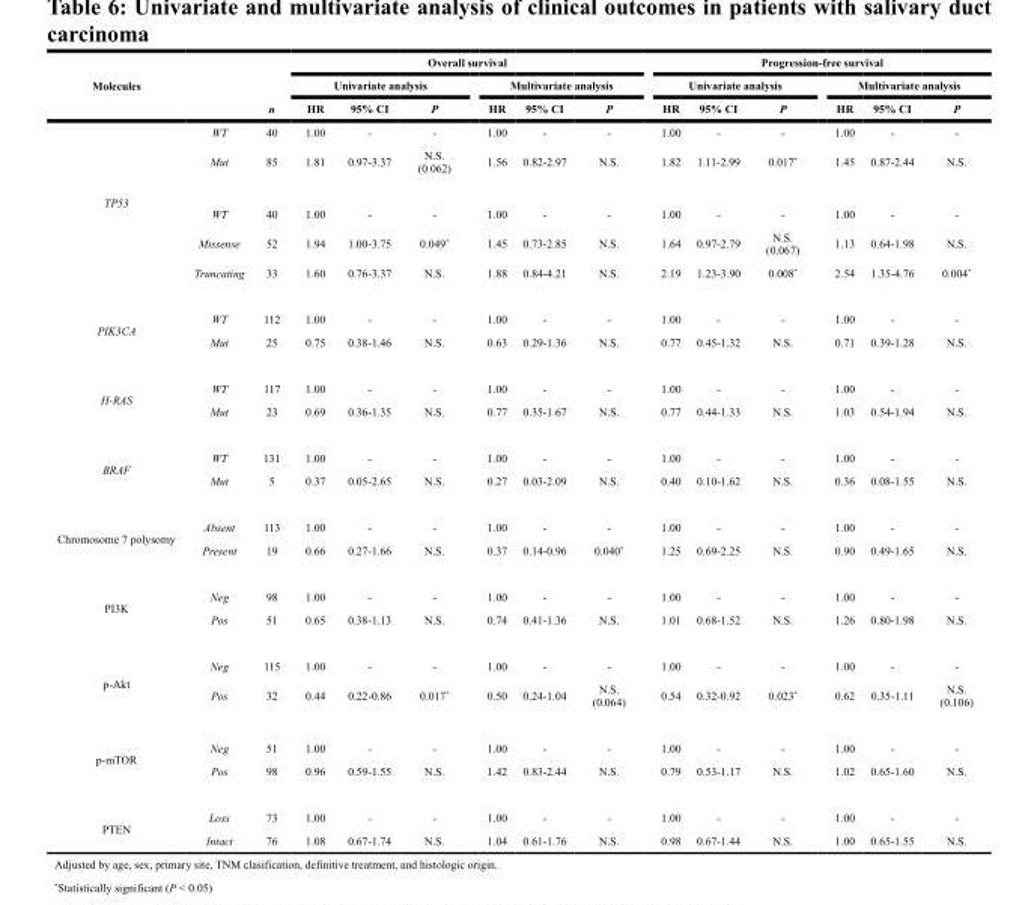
<table><thead><tr><td rowspan="3">Molecules</td><td rowspan="3"></td><td rowspan="3">n</td><td colspan="6">Overall survival</td><td colspan="6">Progression-free survival</td></tr><tr><td colspan="3">Univariate analysis</td><td colspan="3">Multivariate analysis</td><td colspan="3">Univariate analysis</td><td colspan="3">Multivariate analysis</td></tr><tr><td>HR</td><td>95% CI</td><td>P</td><td>HR</td><td>95% CI</td><td>P</td><td>HR</td><td>95% CI</td><td>P</td><td>HR</td><td>95% CI</td><td>P</td></tr></thead><tbody><tr><td rowspan="5">TP53</td><td>WT</td><td>40</td><td>1.00</td><td>-</td><td>-</td><td>1.00</td><td>-</td><td>-</td><td>1.00</td><td>-</td><td>-</td><td>1.00</td><td>-</td><td>-</td></tr><tr><td>Mut</td><td>85</td><td>1.81</td><td>0.97-3.37</td><td>N.S. (0.062)</td><td>1.56</td><td>0.82-2.97</td><td>N.S.</td><td>1.82</td><td>1.11-2.99</td><td>0.017*</td><td>1.45</td><td>0.87-2.44</td><td>N.S.</td></tr><tr><td>WT</td><td>40</td><td>1.00</td><td>-</td><td>-</td><td>1.00</td><td>-</td><td>-</td><td>1.00</td><td>-</td><td>-</td><td>1.00</td><td>-</td><td>-</td></tr><tr><td>Missense</td><td>52</td><td>1.94</td><td>1.00-3.75</td><td>0.049*</td><td>1.45</td><td>0.73-2.85</td><td>N.S.</td><td>1.64</td><td>0.97-2.79</td><td>N.S. (0.067)</td><td>1.13</td><td>0.64-1.98</td><td>N.S.</td></tr><tr><td>Truncating</td><td>33</td><td>1.60</td><td>0.76-3.37</td><td>N.S.</td><td>1.88</td><td>0.84-4.21</td><td>N.S.</td><td>2.19</td><td>1.23-3.90</td><td>0.008*</td><td>2.54</td><td>1.35-4.76</td><td>0.004*</td></tr><tr><td rowspan="2">PIK3CA</td><td>WT</td><td>112</td><td>1.00</td><td>-</td><td>-</td><td>1.00</td><td>-</td><td>-</td><td>1.00</td><td>-</td><td>-</td><td>1.00</td><td>-</td><td>-</td></tr><tr><td>Mut</td><td>25</td><td>0.75</td><td>0.38-1.46</td><td>N.S.</td><td>0.63</td><td>0.29-1.36</td><td>N.S.</td><td>0.77</td><td>0.45-1.32</td><td>N.S.</td><td>0.71</td><td>0.39-1.28</td><td>N.S.</td></tr><tr><td rowspan="2">H-RAS</td><td>WT</td><td>117</td><td>1.00</td><td>-</td><td>-</td><td>1.00</td><td>-</td><td>-</td><td>1.00</td><td>-</td><td>-</td><td>1.00</td><td>-</td><td>-</td></tr><tr><td>Mut</td><td>23</td><td>0.69</td><td>0.36-1.35</td><td>N.S.</td><td>0.77</td><td>0.35-1.67</td><td>N.S.</td><td>0.77</td><td>0.44-1.33</td><td>N.S.</td><td>1.03</td><td>0.54-1.94</td><td>N.S.</td></tr><tr><td rowspan="2">BRAF</td><td>WT</td><td>131</td><td>1.00</td><td>-</td><td>-</td><td>1.00</td><td>-</td><td>-</td><td>1.00</td><td>-</td><td>-</td><td>1.00</td><td>-</td><td>-</td></tr><tr><td>Mut</td><td>5</td><td>0.37</td><td>0.05-2.65</td><td>N.S.</td><td>0.27</td><td>0.03-2.09</td><td>N.S.</td><td>0.40</td><td>0.10-1.62</td><td>N.S.</td><td>0.36</td><td>0.08-1.55</td><td>N.S.</td></tr><tr><td rowspan="2">Chromosome 7 polysomy</td><td>Absent</td><td>113</td><td>1.00</td><td>-</td><td>-</td><td>1.00</td><td>-</td><td>-</td><td>1.00</td><td>-</td><td>-</td><td>1.00</td><td>-</td><td>-</td></tr><tr><td>Present</td><td>19</td><td>0.66</td><td>0.27-1.66</td><td>N.S.</td><td>0.37</td><td>0.14-0.96</td><td>0.040*</td><td>1.25</td><td>0.69-2.25</td><td>N.S.</td><td>0.90</td><td>0.49-1.65</td><td>N.S.</td></tr><tr><td rowspan="2">PI3K</td><td>Neg</td><td>98</td><td>1.00</td><td>-</td><td>-</td><td>1.00</td><td>-</td><td>-</td><td>1.00</td><td>-</td><td>-</td><td>1.00</td><td>-</td><td>-</td></tr><tr><td>Pos</td><td>51</td><td>0.65</td><td>0.38-1.13</td><td>N.S.</td><td>0.74</td><td>0.41-1.36</td><td>N.S.</td><td>1.01</td><td>0.68-1.52</td><td>N.S.</td><td>1.26</td><td>0.80-1.98</td><td>N.S.</td></tr><tr><td rowspan="2">p-Akt</td><td>Neg</td><td>115</td><td>1.00</td><td>-</td><td>-</td><td>1.00</td><td>-</td><td>-</td><td>1.00</td><td>-</td><td>-</td><td>1.00</td><td>-</td><td>-</td></tr><tr><td>Pos</td><td>32</td><td>0.44</td><td>0.22-0.86</td><td>0.017*</td><td>0.50</td><td>0.24-1.04</td><td>N.S. (0.064)</td><td>0.54</td><td>0.32-0.92</td><td>0.023*</td><td>0.62</td><td>0.35-1.11</td><td>N.S. (0.106)</td></tr><tr><td rowspan="2">p-mTOR</td><td>Neg</td><td>51</td><td>1.00</td><td>-</td><td>-</td><td>1.00</td><td>-</td><td>-</td><td>1.00</td><td>-</td><td>-</td><td>1.00</td><td>-</td><td>-</td></tr><tr><td>Pos</td><td>98</td><td>0.96</td><td>0.59-1.55</td><td>N.S.</td><td>1.42</td><td>0.83-2.44</td><td>N.S.</td><td>0.79</td><td>0.53-1.17</td><td>N.S.</td><td>1.02</td><td>0.65-1.60</td><td>N.S.</td></tr><tr><td rowspan="2">PTEN</td><td>Loss</td><td>73</td><td>1.00</td><td>-</td><td>-</td><td>1.00</td><td>-</td><td>-</td><td>1.00</td><td>-</td><td>-</td><td>1.00</td><td>-</td><td>-</td></tr><tr><td>Intact</td><td>76</td><td>1.08</td><td>0.67-1.74</td><td>N.S.</td><td>1.04</td><td>0.61-1.76</td><td>N.S.</td><td>0.98</td><td>0.67-1.44</td><td>N.S.</td><td>1.00</td><td>0.65-1.55</td><td>N.S.</td></tr></tbody></table>